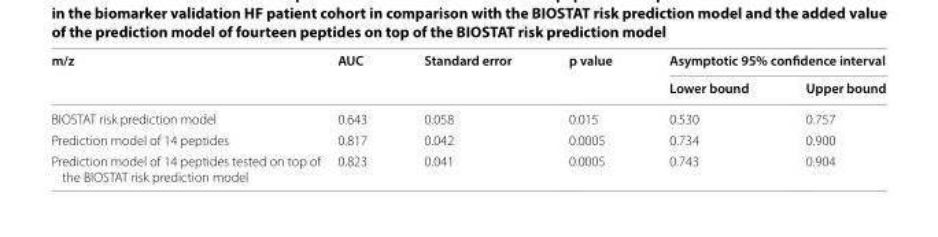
<table><thead><tr><td rowspan="2">m/z</td><td rowspan="2">AUC</td><td rowspan="2">Standard error</td><td rowspan="2">p value</td><td colspan="2">Asymptotic 95% confidence interval</td></tr><tr><td>Lower bound</td><td>Upper bound</td></tr></thead><tbody><tr><td>BIOSTAT risk prediction model</td><td>0.643</td><td>0.058</td><td>0.015</td><td>0.530</td><td>0.757</td></tr><tr><td>Prediction model of 14 peptides</td><td>0.817</td><td>0.042</td><td>0.0005</td><td>0.734</td><td>0.900</td></tr><tr><td>Prediction model of 14 peptides tested on top of the BIOSTAT risk prediction model</td><td>0.823</td><td>0.041</td><td>0.0005</td><td>0.743</td><td>0.904</td></tr></tbody></table>